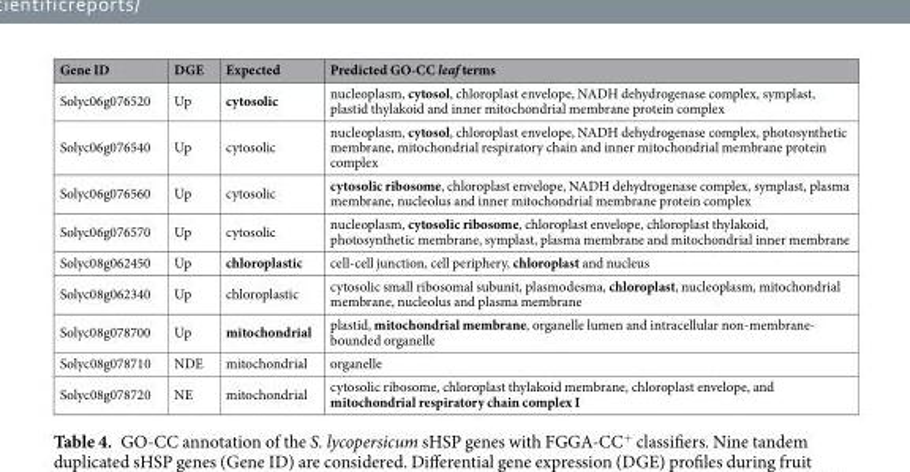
<table><thead><tr><td>Gene ID</td><td>DGE</td><td>Expected</td><td>Predicted GO-CC leaf terms</td></tr></thead><tbody><tr><td>Solyc06g076520</td><td>Up</td><td>cytosolic</td><td>nucleoplasm, cytosol, chloroplast envelope, NADH dehydrogenase complex, symplast, plastid thylakoid and inner mitochondrial membrane protein complex</td></tr><tr><td>Solyc06g076540</td><td>Up</td><td>cytosolic</td><td>nucleoplasm, cytosol, chloroplast envelope, NADH dehydrogenase complex, photosynthetic membrane, mitochondrial respiratory chain and inner mitochondrial membrane protein complex</td></tr><tr><td>Solyc06g076560</td><td>Up</td><td>cytosolic</td><td>cytosolic ribosome, chloroplast envelope, NADH dehydrogenase complex, symplast, plasma membrane, nucleolus and inner mitochondrial membrane protein complex</td></tr><tr><td>Solyc06g076570</td><td>Up</td><td>cytosolic</td><td>nucleoplasm, cytosolic ribosome, chloroplast envelope, chloroplast thylakoid, photosynthetic membrane, symplast, plasma membrane and mitochondrial inner membrane</td></tr><tr><td>Solyc08g062450</td><td>Up</td><td>chloroplastic</td><td>cell-cell junction, cell periphery, chloroplast and nucleus</td></tr><tr><td>Solyc08g062340</td><td>Up</td><td>chloroplastic</td><td>cytosolic small ribosomal subunit, plasmodesma, chloroplast, nucleoplasm, mitochondrial membrane, nucleolus and plasma membrane</td></tr><tr><td>Solyc08g078700</td><td>Up</td><td>mitochondrial</td><td>plastid, mitochondrial membrane, organelle lumen and intracellular non-membrane- bounded organelle</td></tr><tr><td>Solyc08g078710</td><td>NDE</td><td>mitochondrial</td><td>organelle</td></tr><tr><td>Solyc08g078720</td><td>NE</td><td>mitochondrial</td><td>cytosolic ribosome, chloroplast thylakoid membrane, chloroplast envelope, and mitochondrial respiratory chain complex I</td></tr></tbody></table>